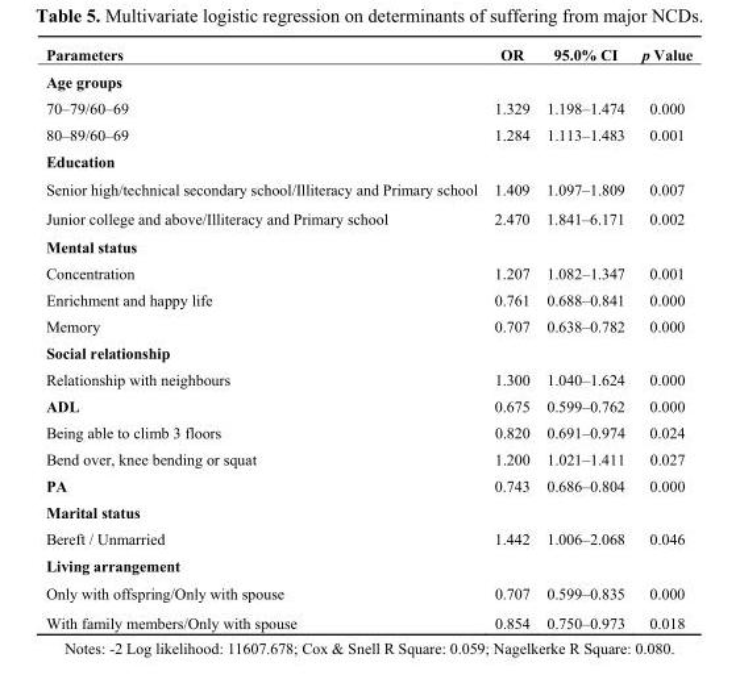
<table><thead><tr><td>Parameters</td><td>OR</td><td>95.0% CI</td><td>p Value</td></tr></thead><tbody><tr><td colspan="4">Age groups</td></tr><tr><td>70–79/60–69</td><td>1.329</td><td>1.198–1.474</td><td>0.000</td></tr><tr><td>80–89/60–69</td><td>1.284</td><td>1.113–1.483</td><td>0.001</td></tr><tr><td colspan="4">Education</td></tr><tr><td>Senior high/technical secondary school/Illiteracy and Primary school</td><td>1.409</td><td>1.097–1.809</td><td>0.007</td></tr><tr><td>Junior college and above/Illiteracy and Primary school</td><td>2.470</td><td>1.841–6.171</td><td>0.002</td></tr><tr><td colspan="4">Mental status</td></tr><tr><td>Concentration</td><td>1.207</td><td>1.082–1.347</td><td>0.001</td></tr><tr><td>Enrichment and happy life</td><td>0.761</td><td>0.688–0.841</td><td>0.000</td></tr><tr><td>Memory</td><td>0.707</td><td>0.638–0.782</td><td>0.000</td></tr><tr><td colspan="4">Social relationship</td></tr><tr><td>Relationship with neighbours</td><td>1.300</td><td>1.040–1.624</td><td>0.000</td></tr><tr><td>ADL</td><td>0.675</td><td>0.599–0.762</td><td>0.000</td></tr><tr><td>Being able to climb 3 floors</td><td>0.820</td><td>0.691–0.974</td><td>0.024</td></tr><tr><td>Bend over, knee bending or squat</td><td>1.200</td><td>1.021–1.411</td><td>0.027</td></tr><tr><td>PA</td><td>0.743</td><td>0.686–0.804</td><td>0.000</td></tr><tr><td colspan="4">Marital status</td></tr><tr><td>Bereft / Unmarried</td><td>1.442</td><td>1.006–2.068</td><td>0.046</td></tr><tr><td colspan="4">Living arrangement</td></tr><tr><td>Only with offspring/Only with spouse</td><td>0.707</td><td>0.599–0.835</td><td>0.000</td></tr><tr><td>With family members/Only with spouse</td><td>0.854</td><td>0.750–0.973</td><td>0.018</td></tr></tbody></table>